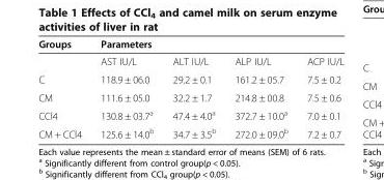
<table><thead><tr><td>Groups</td><td>Parameters</td><td></td><td></td><td></td></tr></thead><tbody><tr><td></td><td>AST IU/L</td><td>ALT IU/L</td><td>ALP IU/L</td><td>ACP IU/L</td></tr><tr><td>C</td><td>118.9 ± 06.0</td><td>29.2 ± 0.1</td><td>161.2 ± 05.7</td><td>7.5 ± 0.2</td></tr><tr><td>CM</td><td>111.6 ± 05.0</td><td>32.2 ± 1.7</td><td>214.8 ± 00.8</td><td>7.5 ± 0.6</td></tr><tr><td>CCl4</td><td>130.8 ± 03.7<sup>a</sup></td><td>47.4 ± 4.0<sup>a</sup></td><td>372.7 ± 10.0<sup>a</sup></td><td>7.0 ± 0.1</td></tr><tr><td>CM + CCl4</td><td>125.6 ± 14.0<sup>b</sup></td><td>34.7 ± 3.5<sup>b</sup></td><td>272.0 ± 09.0<sup>b</sup></td><td>7.2 ± 0.7</td></tr></tbody></table>